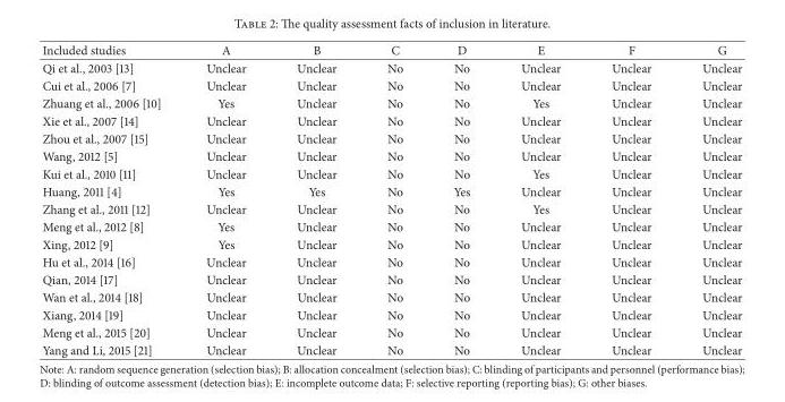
<table><thead><tr><td>Included studies</td><td>A</td><td>B</td><td>C</td><td>D</td><td>E</td><td>F</td><td>G</td></tr></thead><tbody><tr><td>Qi et al., 2003 [13]</td><td>Unclear</td><td>Unclear</td><td>No</td><td>No</td><td>Unclear</td><td>Unclear</td><td>Unclear</td></tr><tr><td>Cui et al., 2006 [7]</td><td>Unclear</td><td>Unclear</td><td>No</td><td>No</td><td>Unclear</td><td>Unclear</td><td>Unclear</td></tr><tr><td>Zhuang et al., 2006 [10]</td><td>Yes</td><td>Unclear</td><td>No</td><td>No</td><td>Yes</td><td>Unclear</td><td>Unclear</td></tr><tr><td>Xie et al., 2007 [14]</td><td>Unclear</td><td>Unclear</td><td>No</td><td>No</td><td>Unclear</td><td>Unclear</td><td>Unclear</td></tr><tr><td>Zhou et al., 2007 [15]</td><td>Unclear</td><td>Unclear</td><td>No</td><td>No</td><td>Unclear</td><td>Unclear</td><td>Unclear</td></tr><tr><td>Wang, 2012 [5]</td><td>Unclear</td><td>Unclear</td><td>No</td><td>No</td><td>Unclear</td><td>Unclear</td><td>Unclear</td></tr><tr><td>Kui et al., 2010 [11]</td><td>Unclear</td><td>Unclear</td><td>No</td><td>No</td><td>Yes</td><td>Unclear</td><td>Unclear</td></tr><tr><td>Huang, 2011 [4]</td><td>Yes</td><td>Yes</td><td>No</td><td>Yes</td><td>Unclear</td><td>Unclear</td><td>Unclear</td></tr><tr><td>Zhang et al., 2011 [12]</td><td>Unclear</td><td>Unclear</td><td>No</td><td>No</td><td>Yes</td><td>Unclear</td><td>Unclear</td></tr><tr><td>Meng et al., 2012 [8]</td><td>Yes</td><td>Unclear</td><td>No</td><td>No</td><td>Unclear</td><td>Unclear</td><td>Unclear</td></tr><tr><td>Xing, 2012 [9]</td><td>Yes</td><td>Unclear</td><td>No</td><td>No</td><td>Unclear</td><td>Unclear</td><td>Unclear</td></tr><tr><td>Hu et al., 2014 [16]</td><td>Unclear</td><td>Unclear</td><td>No</td><td>No</td><td>Unclear</td><td>Unclear</td><td>Unclear</td></tr><tr><td>Qian, 2014 [17]</td><td>Unclear</td><td>Unclear</td><td>No</td><td>No</td><td>Unclear</td><td>Unclear</td><td>Unclear</td></tr><tr><td>Wan et al., 2014 [18]</td><td>Unclear</td><td>Unclear</td><td>No</td><td>No</td><td>Unclear</td><td>Unclear</td><td>Unclear</td></tr><tr><td>Xiang, 2014 [19]</td><td>Unclear</td><td>Unclear</td><td>No</td><td>No</td><td>Unclear</td><td>Unclear</td><td>Unclear</td></tr><tr><td>Meng et al., 2015 [20]</td><td>Unclear</td><td>Unclear</td><td>No</td><td>No</td><td>Unclear</td><td>Unclear</td><td>Unclear</td></tr><tr><td>Yang and Li, 2015 [21]</td><td>Unclear</td><td>Unclear</td><td>No</td><td>No</td><td>Unclear</td><td>Unclear</td><td>Unclear</td></tr></tbody></table>